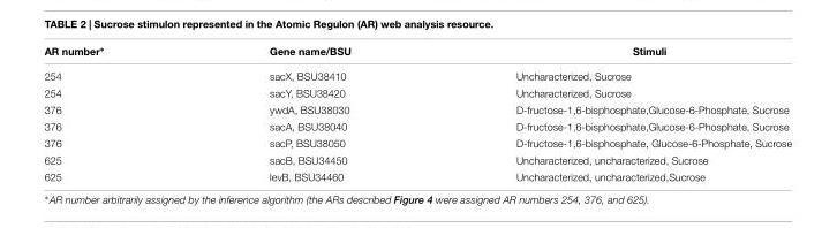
<table><thead><tr><td>AR number∗</td><td>Gene name/BSU</td><td>Stimuli</td></tr></thead><tbody><tr><td>254</td><td>sacX, BSU38410</td><td>Uncharacterized, Sucrose</td></tr><tr><td>254</td><td>sacY, BSU38420</td><td>Uncharacterized, Sucrose</td></tr><tr><td>376</td><td>ywdA, BSU38030</td><td>D-fructose-1,6-bisphosphate,Glucose-6-Phosphate, Sucrose</td></tr><tr><td>376</td><td>sacA, BSU38040</td><td>D-fructose-1,6-bisphosphate,Glucose-6-Phosphate, Sucrose</td></tr><tr><td>376</td><td>sacP, BSU38050</td><td>D-fructose-1,6-bisphosphate, Glucose-6-Phosphate, Sucrose</td></tr><tr><td>625</td><td>sacB, BSU34450</td><td>Uncharacterized, uncharacterized, Sucrose</td></tr><tr><td>625</td><td>levB, BSU34460</td><td>Uncharacterized, uncharacterized,Sucrose</td></tr></tbody></table>